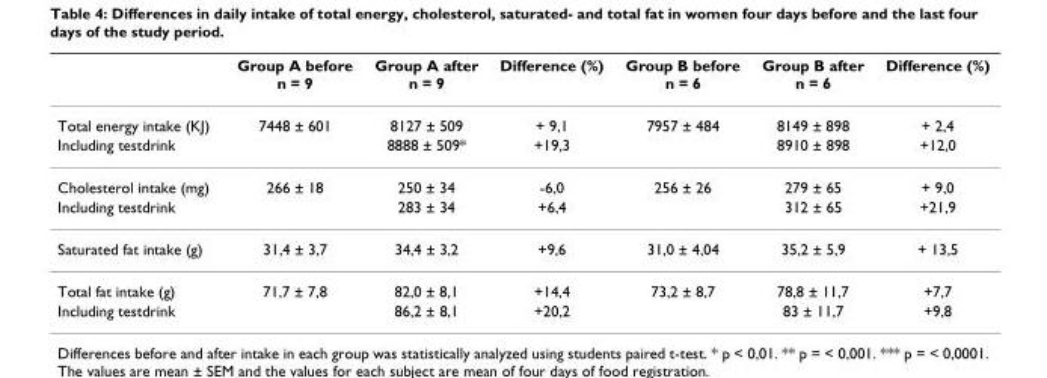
<table><thead><tr><td></td><td>Group A before n = 9</td><td>Group A after n = 9</td><td>Difference (%)</td><td>Group B before n = 6</td><td>Group B after n = 6</td><td>Difference (%)</td></tr></thead><tbody><tr><td>Total energy intake (KJ)</td><td>7448 ± 601</td><td>8127 ± 509</td><td>+ 9,1</td><td>7957 ± 484</td><td>8149 ± 898</td><td>+ 2,4</td></tr><tr><td>Including testdrink</td><td></td><td>8888 ± 509*</td><td>+19,3</td><td></td><td>8910 ± 898</td><td>+12,0</td></tr><tr><td>Cholesterol intake (mg)</td><td>266 ± 18</td><td>250 ± 34</td><td>-6,0</td><td>256 ± 26</td><td>279 ± 65</td><td>+ 9,0</td></tr><tr><td>Including testdrink</td><td></td><td>283 ± 34</td><td>+6,4</td><td></td><td>312 ± 65</td><td>+21,9</td></tr><tr><td>Saturated fat intake (g)</td><td>31,4 ± 3,7</td><td>34,4 ± 3,2</td><td>+9,6</td><td>31,0 ± 4,04</td><td>35,2 ± 5,9</td><td>+ 13,5</td></tr><tr><td>Total fat intake (g)</td><td>71,7 ± 7,8</td><td>82,0 ± 8,1</td><td>+14,4</td><td>73,2 ± 8,7</td><td>78,8 ± 11,7</td><td>+7,7</td></tr><tr><td>Including testdrink</td><td></td><td>86,2 ± 8,1</td><td>+20,2</td><td></td><td>83 ± 11,7</td><td>+9,8</td></tr></tbody></table>